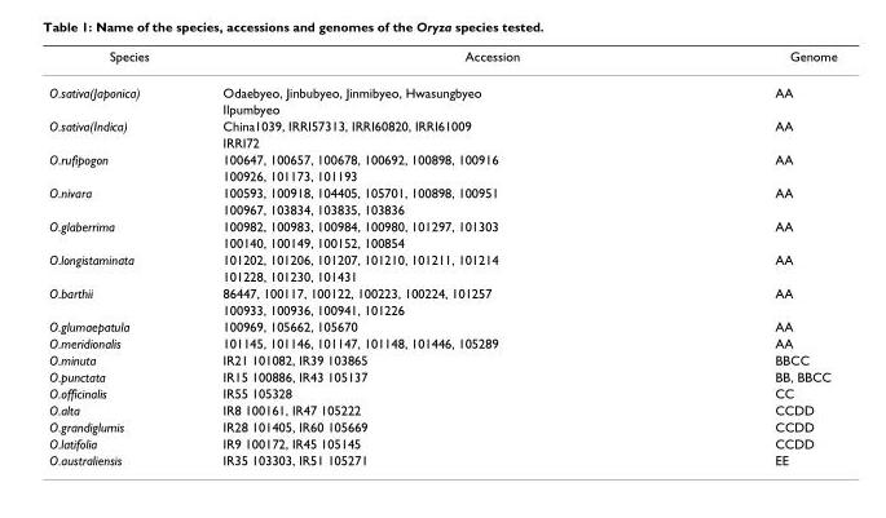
<table><thead><tr><td>Species</td><td>Accession</td><td>Genome</td></tr></thead><tbody><tr><td rowspan="2">O.sativa(Japonica)</td><td>Odaebyeo, Jinbubyeo, Jinmibyeo, Hwasungbyeo</td><td>AA</td></tr><tr><td>Ilpumbyeo</td><td></td></tr><tr><td rowspan="2">O.sativa(Indica)</td><td>China1039, IRRI57313, IRRI60820, IRRI61009</td><td>AA</td></tr><tr><td>IRRI72</td><td></td></tr><tr><td rowspan="2">O.rufipogon</td><td>100647, 100657, 100678, 100692, 100898, 100916</td><td>AA</td></tr><tr><td>100926, 101173, 101193</td><td></td></tr><tr><td rowspan="2">O.nivara</td><td>100593, 100918, 104405, 105701, 100898, 100951</td><td>AA</td></tr><tr><td>100967, 103834, 103835, 103836</td><td></td></tr><tr><td rowspan="2">O.glaberrima</td><td>100982, 100983, 100984, 100980, 101297, 101303</td><td>AA</td></tr><tr><td>100140, 100149, 100152, 100854</td><td></td></tr><tr><td rowspan="2">O.longistaminata</td><td>101202, 101206, 101207, 101210, 101211, 101214</td><td>AA</td></tr><tr><td>101228, 101230, 101431</td><td></td></tr><tr><td rowspan="2">O.barthii</td><td>86447, 100117, 100122, 100223, 100224, 101257</td><td>AA</td></tr><tr><td>100933, 100936, 100941, 101226</td><td></td></tr><tr><td>O.glumaepatula</td><td>100969, 105662, 105670</td><td>AA</td></tr><tr><td>O.meridionalis</td><td>101145, 101146, 101147, 101148, 101446, 105289</td><td>AA</td></tr><tr><td>O.minuta</td><td>IR21 101082, IR39 103865</td><td>BBCC</td></tr><tr><td>O.punctata</td><td>IR15 100886, IR43 105137</td><td>BB, BBCC</td></tr><tr><td>O.officinalis</td><td>IR55 105328</td><td>CC</td></tr><tr><td>O.alta</td><td>IR8 100161, IR47 105222</td><td>CCDD</td></tr><tr><td>O.grandiglumis</td><td>IR28 101405, IR60 105669</td><td>CCDD</td></tr><tr><td>O.latifolia</td><td>IR9 100172, IR45 105145</td><td>CCDD</td></tr><tr><td>O.australiensis</td><td>IR35 103303, IR51 105271</td><td>EE</td></tr></tbody></table>